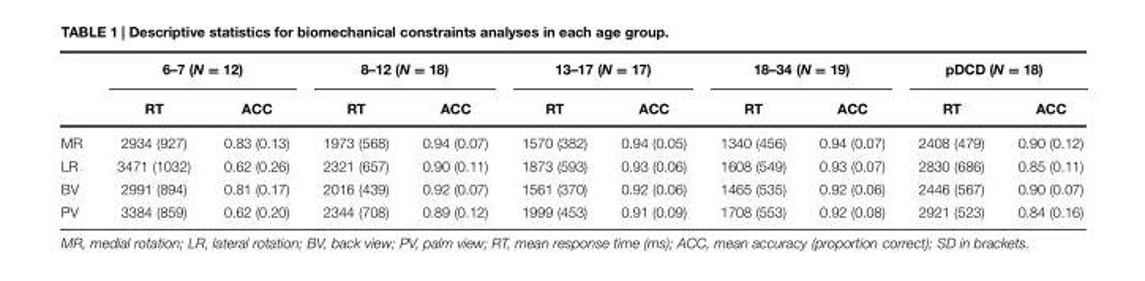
<table><thead><tr><td rowspan="2"></td><td colspan="2">6–7 (N = 12)</td><td colspan="2">8–12 (N = 18)</td><td colspan="2">13–17 (N = 17)</td><td colspan="2">18–34 (N = 19)</td><td colspan="2">pDCD (N = 18)</td></tr><tr><td>RT</td><td>ACC</td><td>RT</td><td>ACC</td><td>RT</td><td>ACC</td><td>RT</td><td>ACC</td><td>RT</td><td>ACC</td></tr></thead><tbody><tr><td>MR</td><td>2934 (927)</td><td>0.83 (0.13)</td><td>1973 (568)</td><td>0.94 (0.07)</td><td>1570 (382)</td><td>0.94 (0.05)</td><td>1340 (456)</td><td>0.94 (0.07)</td><td>2408 (479)</td><td>0.90 (0.12)</td></tr><tr><td>LR</td><td>3471 (1032)</td><td>0.62 (0.26)</td><td>2321 (657)</td><td>0.90 (0.11)</td><td>1873 (593)</td><td>0.93 (0.06)</td><td>1608 (549)</td><td>0.93 (0.07)</td><td>2830 (686)</td><td>0.85 (0.11)</td></tr><tr><td>BV</td><td>2991 (894)</td><td>0.81 (0.17)</td><td>2016 (439)</td><td>0.92 (0.07)</td><td>1561 (370)</td><td>0.92 (0.06)</td><td>1465 (535)</td><td>0.92 (0.06)</td><td>2446 (567)</td><td>0.90 (0.07)</td></tr><tr><td>PV</td><td>3384 (859)</td><td>0.62 (0.20)</td><td>2344 (708)</td><td>0.89 (0.12)</td><td>1999 (453)</td><td>0.91 (0.09)</td><td>1708 (553)</td><td>0.92 (0.08)</td><td>2921 (523)</td><td>0.84 (0.16)</td></tr></tbody></table>